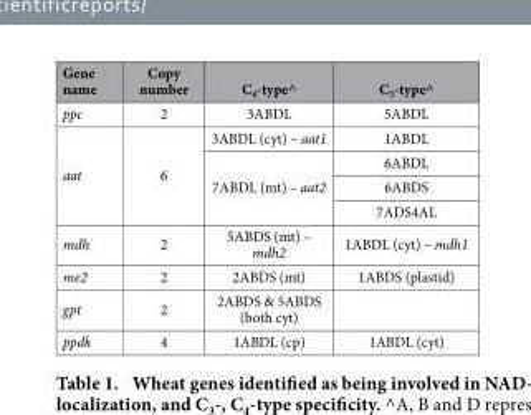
<table><thead><tr><td>Gene name</td><td>Copy number</td><td>C<sub>4</sub>-type^</td><td>C<sub>3</sub>-type^</td></tr></thead><tbody><tr><td>ppc</td><td>2</td><td>3ABDL</td><td>5ABDL</td></tr><tr><td rowspan="4">aat</td><td rowspan="4">6</td><td>3ABDL (cyt) – aat1</td><td>1ABDL</td></tr><tr><td rowspan="3">7ABDL (mt) – aat2</td><td>6ABDL</td></tr><tr><td>6ABDS</td></tr><tr><td>7ADS4AL</td></tr><tr><td>mdh</td><td>2</td><td>5ABDS (mt) – mdh2</td><td>1ABDL (cyt) – mdh1</td></tr><tr><td>me2</td><td>2</td><td>2ABDS (mt)</td><td>1ABDS (plastid)</td></tr><tr><td>gpt</td><td>2</td><td>2ABDS &amp; 5ABDS (both cyt)</td><td></td></tr><tr><td>ppdk</td><td>4</td><td>1ABDL (cp)</td><td>1ABDL (cyt)</td></tr></tbody></table>